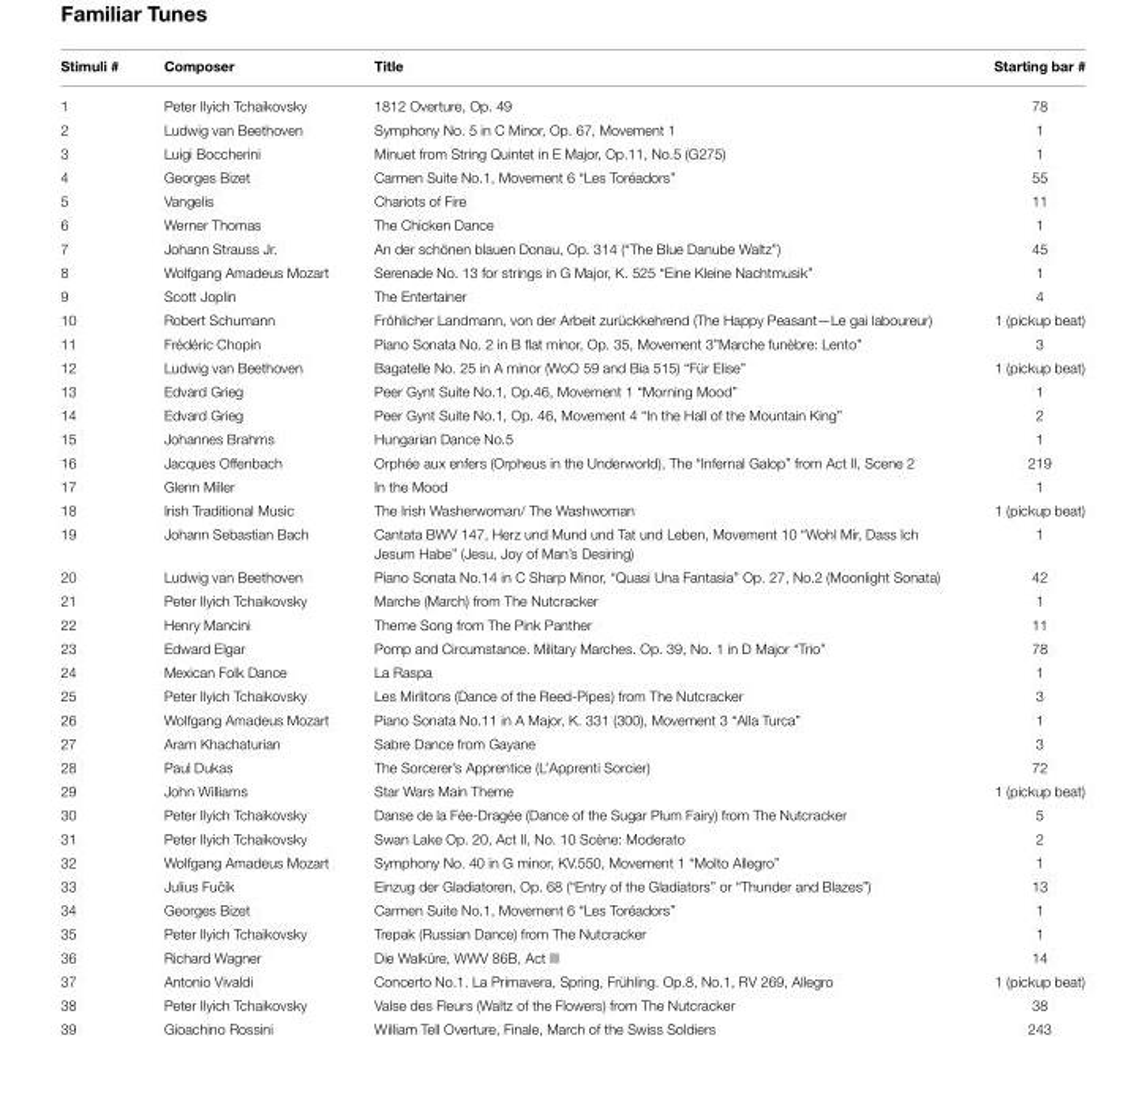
<table><thead><tr><td>Stimuli #</td><td>Composer</td><td>Title</td><td>Starting bar #</td></tr></thead><tbody><tr><td>1</td><td>Peter Ilyich Tchaikovsky</td><td>1812 Overture, Op. 49</td><td>78</td></tr><tr><td>2</td><td>Ludwig van Beethoven</td><td>Symphony No. 5 in C Minor, Op. 67, Movement 1</td><td>1</td></tr><tr><td>3</td><td>Luigi Boccherini</td><td>Minuet from String Quintet in E Major, Op.11, No.5 (G275)</td><td>1</td></tr><tr><td>4</td><td>Georges Bizet</td><td>Carmen Suite No.1, Movement 6 “Les Toréadors”</td><td>55</td></tr><tr><td>5</td><td>Vangelis</td><td>Chariots of Fire</td><td>11</td></tr><tr><td>6</td><td>Werner Thomas</td><td>The Chicken Dance</td><td>1</td></tr><tr><td>7</td><td>Johann Strauss Jr.</td><td>An der schönen blauen Donau, Op. 314 (“The Blue Danube Waltz”)</td><td>45</td></tr><tr><td>8</td><td>Wolfgang Amadeus Mozart</td><td>Serenade No. 13 for strings in G Major, K. 525 “Eine Kleine Nachtmusik”</td><td>1</td></tr><tr><td>9</td><td>Scott Joplin</td><td>The Entertainer</td><td>4</td></tr><tr><td>10</td><td>Robert Schumann</td><td>Fröhlicher Landmann, von der Arbeit zurückkehrend (The Happy Peasant—Le gai laboureur)</td><td>1 (pickup beat)</td></tr><tr><td>11</td><td>Frédéric Chopin</td><td>Piano Sonata No. 2 in B flat minor, Op. 35, Movement 3”Marche funèbre: Lento”</td><td>3</td></tr><tr><td>12</td><td>Ludwig van Beethoven</td><td>Bagatelle No. 25 in A minor (WoO 59 and Bia 515) “Für Elise”</td><td>1 (pickup beat)</td></tr><tr><td>13</td><td>Edvard Grieg</td><td>Peer Gynt Suite No.1, Op.46, Movement 1 “Morning Mood”</td><td>1</td></tr><tr><td>14</td><td>Edvard Grieg</td><td>Peer Gynt Suite No.1, Op. 46, Movement 4 “In the Hall of the Mountain King”</td><td>2</td></tr><tr><td>15</td><td>Johannes Brahms</td><td>Hungarian Dance No.5</td><td>1</td></tr><tr><td>16</td><td>Jacques Offenbach</td><td>Orphée aux enfers (Orpheus in the Underworld), The “Infernal Galop” from Act II, Scene 2</td><td>219</td></tr><tr><td>17</td><td>Glenn Miller</td><td>In the Mood</td><td>1</td></tr><tr><td>18</td><td>Irish Traditional Music</td><td>The Irish Washerwoman/ The Washwoman</td><td>1 (pickup beat)</td></tr><tr><td>19</td><td>Johann Sebastian Bach</td><td>Cantata BWV 147, Herz und Mund und Tat und Leben, Movement 10 “Wohl Mir, Dass Ich Jesum Habe” (Jesu, Joy of Man’s Desiring)</td><td>1</td></tr><tr><td>20</td><td>Ludwig van Beethoven</td><td>Piano Sonata No.14 in C Sharp Minor, “Quasi Una Fantasia” Op. 27, No.2 (Moonlight Sonata)</td><td>42</td></tr><tr><td>21</td><td>Peter Ilyich Tchaikovsky</td><td>Marche (March) from The Nutcracker</td><td>1</td></tr><tr><td>22</td><td>Henry Mancini</td><td>Theme Song from The Pink Panther</td><td>11</td></tr><tr><td>23</td><td>Edward Elgar</td><td>Pomp and Circumstance. Military Marches. Op. 39, No. 1 in D Major “Trio”</td><td>78</td></tr><tr><td>24</td><td>Mexican Folk Dance</td><td>La Raspa</td><td>1</td></tr><tr><td>25</td><td>Peter Ilyich Tchaikovsky</td><td>Les Mirlitons (Dance of the Reed-Pipes) from The Nutcracker</td><td>3</td></tr><tr><td>26</td><td>Wolfgang Amadeus Mozart</td><td>Piano Sonata No.11 in A Major, K. 331 (300), Movement 3 “Alla Turca”</td><td>1</td></tr><tr><td>27</td><td>Aram Khachaturian</td><td>Sabre Dance from Gayane</td><td>3</td></tr><tr><td>28</td><td>Paul Dukas</td><td>The Sorcerer’s Apprentice (L’Apprenti Sorcier)</td><td>72</td></tr><tr><td>29</td><td>John Williams</td><td>Star Wars Main Theme</td><td>1 (pickup beat)</td></tr><tr><td>30</td><td>Peter Ilyich Tchaikovsky</td><td>Danse de la Fée-Dragée (Dance of the Sugar Plum Fairy) from The Nutcracker</td><td>5</td></tr><tr><td>31</td><td>Peter Ilyich Tchaikovsky</td><td>Swan Lake Op. 20, Act II, No. 10 Scène: Moderato</td><td>2</td></tr><tr><td>32</td><td>Wolfgang Amadeus Mozart</td><td>Symphony No. 40 in G minor, KV.550, Movement 1 “Molto Allegro”</td><td>1</td></tr><tr><td>33</td><td>Julius Fu ˇcík</td><td>Einzug der Gladiatoren, Op. 68 (“Entry of the Gladiators” or “Thunder and Blazes”)</td><td>13</td></tr><tr><td>34</td><td>Georges Bizet</td><td>Carmen Suite No.1, Movement 6 “Les Toréadors”</td><td>1</td></tr><tr><td>35</td><td>Peter Ilyich Tchaikovsky</td><td>Trepak (Russian Dance) from The Nutcracker</td><td>1</td></tr><tr><td>36</td><td>Richard Wagner</td><td>Die Walküre, WWV 86B, Act III</td><td>14</td></tr><tr><td>37</td><td>Antonio Vivaldi</td><td>Concerto No.1. La Primavera, Spring, Frühling. Op.8, No.1, RV 269, Allegro</td><td>1 (pickup beat)</td></tr><tr><td>38</td><td>Peter Ilyich Tchaikovsky</td><td>Valse des Fleurs (Waltz of the Flowers) from The Nutcracker</td><td>38</td></tr><tr><td>39</td><td>Gioachino Rossini</td><td>William Tell Overture, Finale, March of the Swiss Soldiers</td><td>243</td></tr></tbody></table>